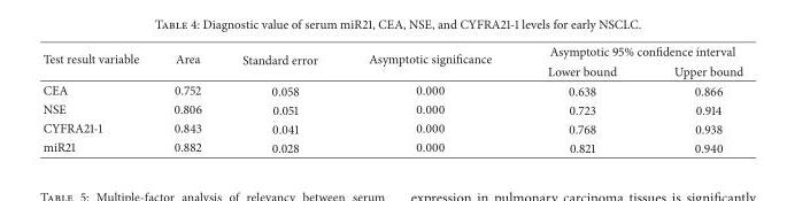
<table><thead><tr><td rowspan="2">Test result variable</td><td rowspan="2">Area</td><td rowspan="2">Standard error</td><td rowspan="2">Asymptotic significance</td><td colspan="2">Asymptotic 95% confidence interval</td></tr><tr><td>Lower bound</td><td>Upper bound</td></tr></thead><tbody><tr><td>CEA</td><td>0.752</td><td>0.058</td><td>0.000</td><td>0.638</td><td>0.866</td></tr><tr><td>NSE</td><td>0.806</td><td>0.051</td><td>0.000</td><td>0.723</td><td>0.914</td></tr><tr><td>CYFRA21-1</td><td>0.843</td><td>0.041</td><td>0.000</td><td>0.768</td><td>0.938</td></tr><tr><td>miR21</td><td>0.882</td><td>0.028</td><td>0.000</td><td>0.821</td><td>0.940</td></tr></tbody></table>